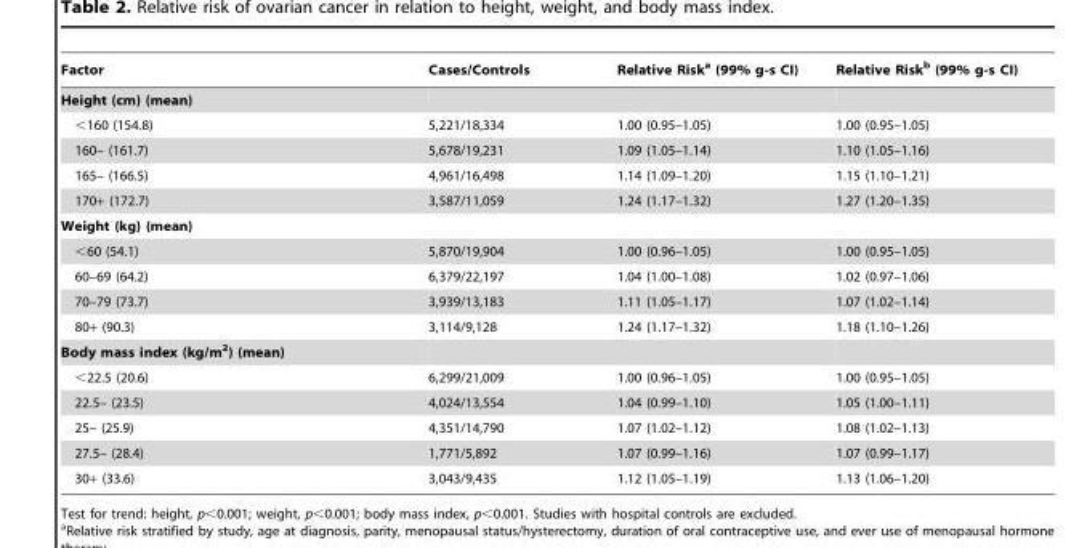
<table><thead><tr><td>Factor</td><td>Cases/Controls</td><td>Relative Risk<sup>a</sup> (99% g-s CI)</td><td>Relative Risk<sup>b</sup> (99% g-s CI)</td></tr></thead><tbody><tr><td colspan="4">Height (cm) (mean)</td></tr><tr><td>&lt;160 (154.8)</td><td>5,221/18,334</td><td>1.00 (0.95–1.05)</td><td>1.00 (0.95–1.05)</td></tr><tr><td>160– (161.7)</td><td>5,678/19,231</td><td>1.09 (1.05–1.14)</td><td>1.10 (1.05–1.16)</td></tr><tr><td>165– (166.5)</td><td>4,961/16,498</td><td>1.14 (1.09–1.20)</td><td>1.15 (1.10–1.21)</td></tr><tr><td>170+ (172.7)</td><td>3,587/11,059</td><td>1.24 (1.17–1.32)</td><td>1.27 (1.20–1.35)</td></tr><tr><td colspan="4">Weight (kg) (mean)</td></tr><tr><td>&lt;60 (54.1)</td><td>5,870/19,904</td><td>1.00 (0.96–1.05)</td><td>1.00 (0.95–1.05)</td></tr><tr><td>60–69 (64.2)</td><td>6,379/22,197</td><td>1.04 (1.00–1.08)</td><td>1.02 (0.97–1.06)</td></tr><tr><td>70–79 (73.7)</td><td>3,939/13,183</td><td>1.11 (1.05–1.17)</td><td>1.07 (1.02–1.14)</td></tr><tr><td>80+ (90.3)</td><td>3,114/9,128</td><td>1.24 (1.17–1.32)</td><td>1.18 (1.10–1.26)</td></tr><tr><td colspan="4">Body mass index (kg/m<sup>2</sup>) (mean)</td></tr><tr><td>&lt;22.5 (20.6)</td><td>6,299/21,009</td><td>1.00 (0.96–1.05)</td><td>1.00 (0.95–1.05)</td></tr><tr><td>22.5– (23.5)</td><td>4,024/13,554</td><td>1.04 (0.99–1.10)</td><td>1.05 (1.00–1.11)</td></tr><tr><td>25– (25.9)</td><td>4,351/14,790</td><td>1.07 (1.02–1.12)</td><td>1.08 (1.02–1.13)</td></tr><tr><td>27.5– (28.4)</td><td>1,771/5,892</td><td>1.07 (0.99–1.16)</td><td>1.07 (0.99–1.17)</td></tr><tr><td>30+ (33.6)</td><td>3,043/9,435</td><td>1.12 (1.05–1.19)</td><td>1.13 (1.06–1.20)</td></tr></tbody></table>